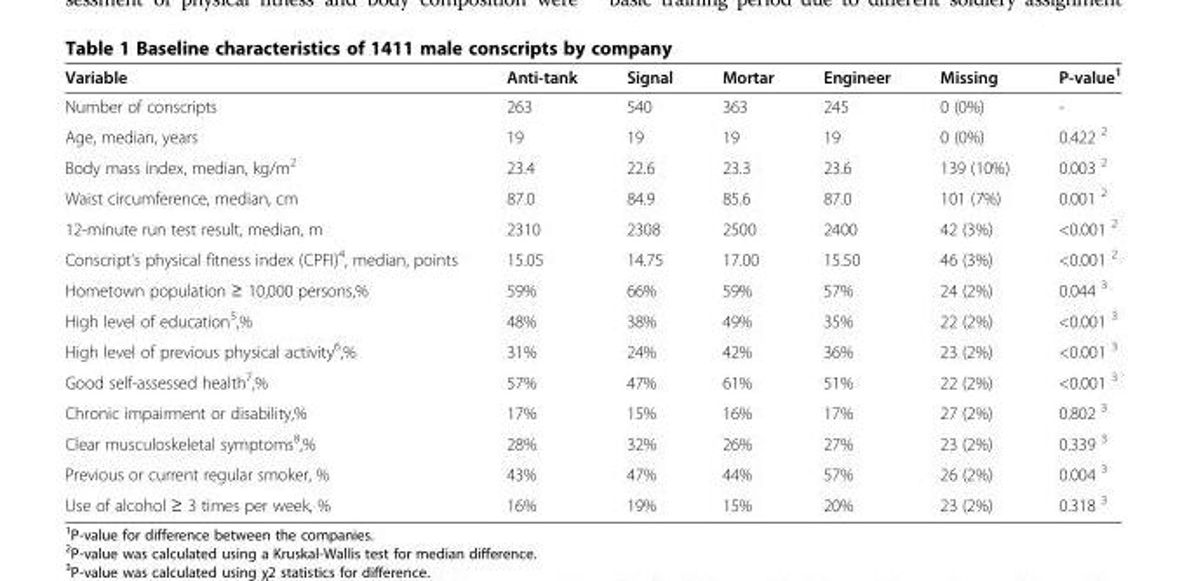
<table><thead><tr><td>Variable</td><td>Anti-tank</td><td>Signal</td><td>Mortar</td><td>Engineer</td><td>Missing</td><td>P-value<sup>1</sup></td></tr></thead><tbody><tr><td>Number of conscripts</td><td>263</td><td>540</td><td>363</td><td>245</td><td>0 (0%)</td><td>-</td></tr><tr><td>Age, median, years</td><td>19</td><td>19</td><td>19</td><td>19</td><td>0 (0%)</td><td>0.422 <sup>2</sup></td></tr><tr><td>Body mass index, median, kg/m<sup>2</sup></td><td>23.4</td><td>22.6</td><td>23.3</td><td>23.6</td><td>139 (10%)</td><td>0.003 <sup>2</sup></td></tr><tr><td>Waist circumference, median, cm</td><td>87.0</td><td>84.9</td><td>85.6</td><td>87.0</td><td>101 (7%)</td><td>0.001 <sup>2</sup></td></tr><tr><td>12-minute run test result, median, m</td><td>2310</td><td>2308</td><td>2500</td><td>2400</td><td>42 (3%)</td><td>&lt;0.001 <sup>2</sup></td></tr><tr><td>Conscript’s physical fitness index (CPFI)<sup>4</sup>, median, points</td><td>15.05</td><td>14.75</td><td>17.00</td><td>15.50</td><td>46 (3%)</td><td>&lt;0.001 <sup>2</sup></td></tr><tr><td>Hometown population ≥ 10,000 persons,%</td><td>59%</td><td>66%</td><td>59%</td><td>57%</td><td>24 (2%)</td><td>0.044 <sup>3</sup></td></tr><tr><td>High level of education<sup>5</sup>,%</td><td>48%</td><td>38%</td><td>49%</td><td>35%</td><td>22 (2%)</td><td>&lt;0.001 <sup>3</sup></td></tr><tr><td>High level of previous physical activity<sup>6</sup>,%</td><td>31%</td><td>24%</td><td>42%</td><td>36%</td><td>23 (2%)</td><td>&lt;0.001 <sup>3</sup></td></tr><tr><td>Good self-assessed health<sup>7</sup>,%</td><td>57%</td><td>47%</td><td>61%</td><td>51%</td><td>22 (2%)</td><td>&lt;0.001 <sup>3</sup></td></tr><tr><td>Chronic impairment or disability,%</td><td>17%</td><td>15%</td><td>16%</td><td>17%</td><td>27 (2%)</td><td>0.802 <sup>3</sup></td></tr><tr><td>Clear musculoskeletal symptoms<sup>8</sup>,%</td><td>28%</td><td>32%</td><td>26%</td><td>27%</td><td>23 (2%)</td><td>0.339 <sup>3</sup></td></tr><tr><td>Previous or current regular smoker, %</td><td>43%</td><td>47%</td><td>44%</td><td>57%</td><td>26 (2%)</td><td>0.004 <sup>3</sup></td></tr><tr><td>Use of alcohol ≥ 3 times per week, %</td><td>16%</td><td>19%</td><td>15%</td><td>20%</td><td>23 (2%)</td><td>0.318 <sup>3</sup></td></tr></tbody></table>